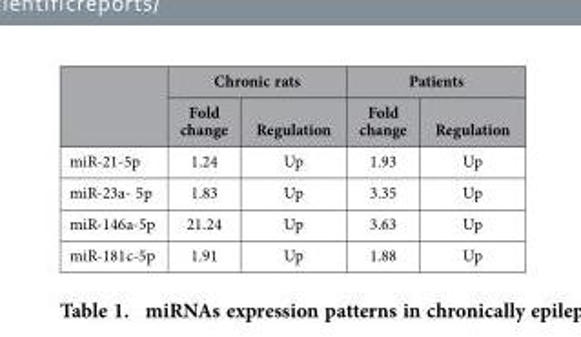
<table><thead><tr><td rowspan="2"></td><td colspan="2">Chronic rats</td><td colspan="2">Patients</td></tr><tr><td>Fold change</td><td>Regulation</td><td>Fold change</td><td>Regulation</td></tr></thead><tbody><tr><td>miR-21-5p</td><td>1.24</td><td>Up</td><td>1.93</td><td>Up</td></tr><tr><td>miR-23a- 5p</td><td>1.83</td><td>Up</td><td>3.35</td><td>Up</td></tr><tr><td>miR-146a-5p</td><td>21.24</td><td>Up</td><td>3.63</td><td>Up</td></tr><tr><td>miR-181c-5p</td><td>1.91</td><td>Up</td><td>1.88</td><td>Up</td></tr></tbody></table>